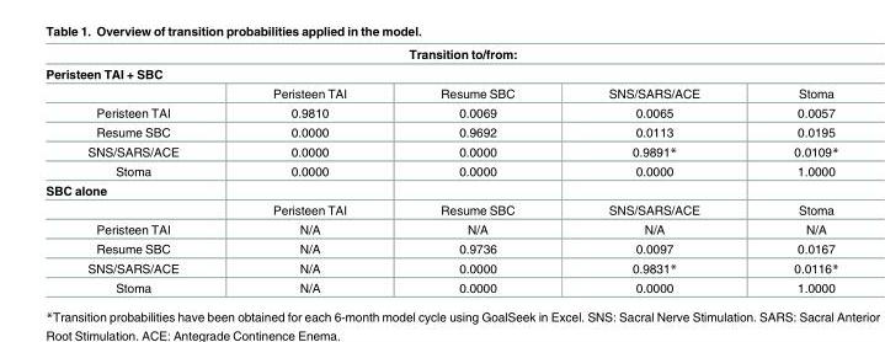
<table><thead><tr><td rowspan="2" colspan="5">Transition to/from: Peristeen TAI + SBC</td></tr><tr></tr><tr><td></td><td>Peristeen TAI</td><td>Resume SBC</td><td>SNS/SARS/ACE</td><td>Stoma</td></tr></thead><tbody><tr><td>Peristeen TAI</td><td>0.9810</td><td>0.0069</td><td>0.0065</td><td>0.0057</td></tr><tr><td>Resume SBC</td><td>0.0000</td><td>0.9692</td><td>0.0113</td><td>0.0195</td></tr><tr><td>SNS/SARS/ACE</td><td>0.0000</td><td>0.0000</td><td>0.9891*</td><td>0.0109*</td></tr><tr><td>Stoma</td><td>0.0000</td><td>0.0000</td><td>0.0000</td><td>1.0000</td></tr><tr><td colspan="5">SBC alone</td></tr><tr><td></td><td>Peristeen TAI</td><td>Resume SBC</td><td>SNS/SARS/ACE</td><td>Stoma</td></tr><tr><td>Peristeen TAI</td><td>N/A</td><td>N/A</td><td>N/A</td><td>N/A</td></tr><tr><td>Resume SBC</td><td>N/A</td><td>0.9736</td><td>0.0097</td><td>0.0167</td></tr><tr><td>SNS/SARS/ACE</td><td>N/A</td><td>0.0000</td><td>0.9831*</td><td>0.0116*</td></tr><tr><td>Stoma</td><td>N/A</td><td>0.0000</td><td>0.0000</td><td>1.0000</td></tr></tbody></table>